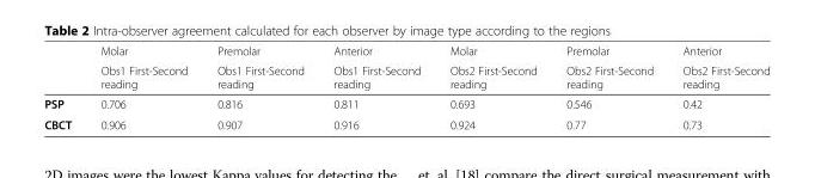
<table><thead><tr><td rowspan="2"></td><td rowspan="2">Molar Obs1 First-Second reading</td><td rowspan="2">Premolar Obs1 First-Second reading</td><td rowspan="2">Anterior Obs1 First-Second reading</td><td rowspan="2">Molar Obs2 First-Second reading</td><td rowspan="2">Premolar Obs2 First-Second reading</td><td rowspan="2">Anterior Obs2 First-Second reading</td></tr><tr></tr></thead><tbody><tr><td>PSP</td><td>0.706</td><td>0.816</td><td>0.811</td><td>0.693</td><td>0.546</td><td>0.42</td></tr><tr><td>CBCT</td><td>0.906</td><td>0.907</td><td>0.916</td><td>0.924</td><td>0.77</td><td>0.73</td></tr></tbody></table>